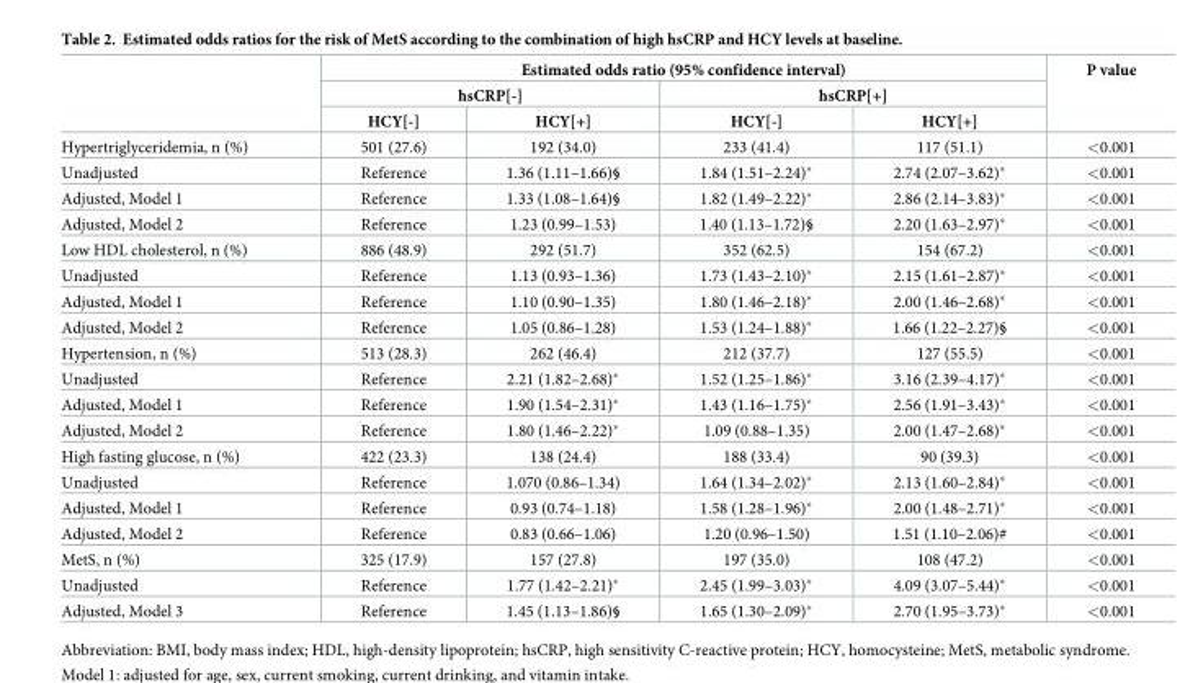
<table><thead><tr><td rowspan="3"></td><td colspan="4">Estimated odds ratio (95% confidence interval)</td><td rowspan="3">P value</td></tr><tr><td colspan="2">hsCRP[-]</td><td colspan="2">hsCRP[+]</td></tr><tr><td>HCY[-]</td><td>HCY[+]</td><td>HCY[-]</td><td>HCY[+]</td></tr></thead><tbody><tr><td>Hypertriglyceridemia, n (%)</td><td>501 (27.6)</td><td>192 (34.0)</td><td>233 (41.4)</td><td>117 (51.1)</td><td>&lt;0.001</td></tr><tr><td>Unadjusted</td><td>Reference</td><td>1.36 (1.11–1.66)§</td><td>1.84 (1.51–2.24)*</td><td>2.74 (2.07–3.62)*</td><td>&lt;0.001</td></tr><tr><td>Adjusted, Model 1</td><td>Reference</td><td>1.33 (1.08–1.64)§</td><td>1.82 (1.49–2.22)*</td><td>2.86 (2.14–3.83)*</td><td>&lt;0.001</td></tr><tr><td>Adjusted, Model 2</td><td>Reference</td><td>1.23 (0.99–1.53)</td><td>1.40 (1.13–1.72)§</td><td>2.20 (1.63–2.97)*</td><td>&lt;0.001</td></tr><tr><td>Low HDL cholesterol, n (%)</td><td>886 (48.9)</td><td>292 (51.7)</td><td>352 (62.5)</td><td>154 (67.2)</td><td>&lt;0.001</td></tr><tr><td>Unadjusted</td><td>Reference</td><td>1.13 (0.93–1.36)</td><td>1.73 (1.43–2.10)*</td><td>2.15 (1.61–2.87)*</td><td>&lt;0.001</td></tr><tr><td>Adjusted, Model 1</td><td>Reference</td><td>1.10 (0.90–1.35)</td><td>1.80 (1.46–2.18)*</td><td>2.00 (1.46–2.68)*</td><td>&lt;0.001</td></tr><tr><td>Adjusted, Model 2</td><td>Reference</td><td>1.05 (0.86–1.28)</td><td>1.53 (1.24–1.88)*</td><td>1.66 (1.22–2.27)§</td><td>&lt;0.001</td></tr><tr><td>Hypertension, n (%)</td><td>513 (28.3)</td><td>262 (46.4)</td><td>212 (37.7)</td><td>127 (55.5)</td><td>&lt;0.001</td></tr><tr><td>Unadjusted</td><td>Reference</td><td>2.21 (1.82–2.68)*</td><td>1.52 (1.25–1.86)*</td><td>3.16 (2.39–4.17)*</td><td>&lt;0.001</td></tr><tr><td>Adjusted, Model 1</td><td>Reference</td><td>1.90 (1.54–2.31)*</td><td>1.43 (1.16–1.75)*</td><td>2.56 (1.91–3.43)*</td><td>&lt;0.001</td></tr><tr><td>Adjusted, Model 2</td><td>Reference</td><td>1.80 (1.46–2.22)*</td><td>1.09 (0.88–1.35)</td><td>2.00 (1.47–2.68)*</td><td>&lt;0.001</td></tr><tr><td>High fasting glucose, n (%)</td><td>422 (23.3)</td><td>138 (24.4)</td><td>188 (33.4)</td><td>90 (39.3)</td><td>&lt;0.001</td></tr><tr><td>Unadjusted</td><td>Reference</td><td>1.070 (0.86–1.34)</td><td>1.64 (1.34–2.02)*</td><td>2.13 (1.60–2.84)*</td><td>&lt;0.001</td></tr><tr><td>Adjusted, Model 1</td><td>Reference</td><td>0.93 (0.74–1.18)</td><td>1.58 (1.28–1.96)*</td><td>2.00 (1.48–2.71)*</td><td>&lt;0.001</td></tr><tr><td>Adjusted, Model 2</td><td>Reference</td><td>0.83 (0.66–1.06)</td><td>1.20 (0.96–1.50)</td><td>1.51 (1.10–2.06)#</td><td>&lt;0.001</td></tr><tr><td>MetS, n (%)</td><td>325 (17.9)</td><td>157 (27.8)</td><td>197 (35.0)</td><td>108 (47.2)</td><td>&lt;0.001</td></tr><tr><td>Unadjusted</td><td>Reference</td><td>1.77 (1.42–2.21)*</td><td>2.45 (1.99–3.03)*</td><td>4.09 (3.07–5.44)*</td><td>&lt;0.001</td></tr><tr><td>Adjusted, Model 3</td><td>Reference</td><td>1.45 (1.13–1.86)§</td><td>1.65 (1.30–2.09)*</td><td>2.70 (1.95–3.73)*</td><td>&lt;0.001</td></tr></tbody></table>